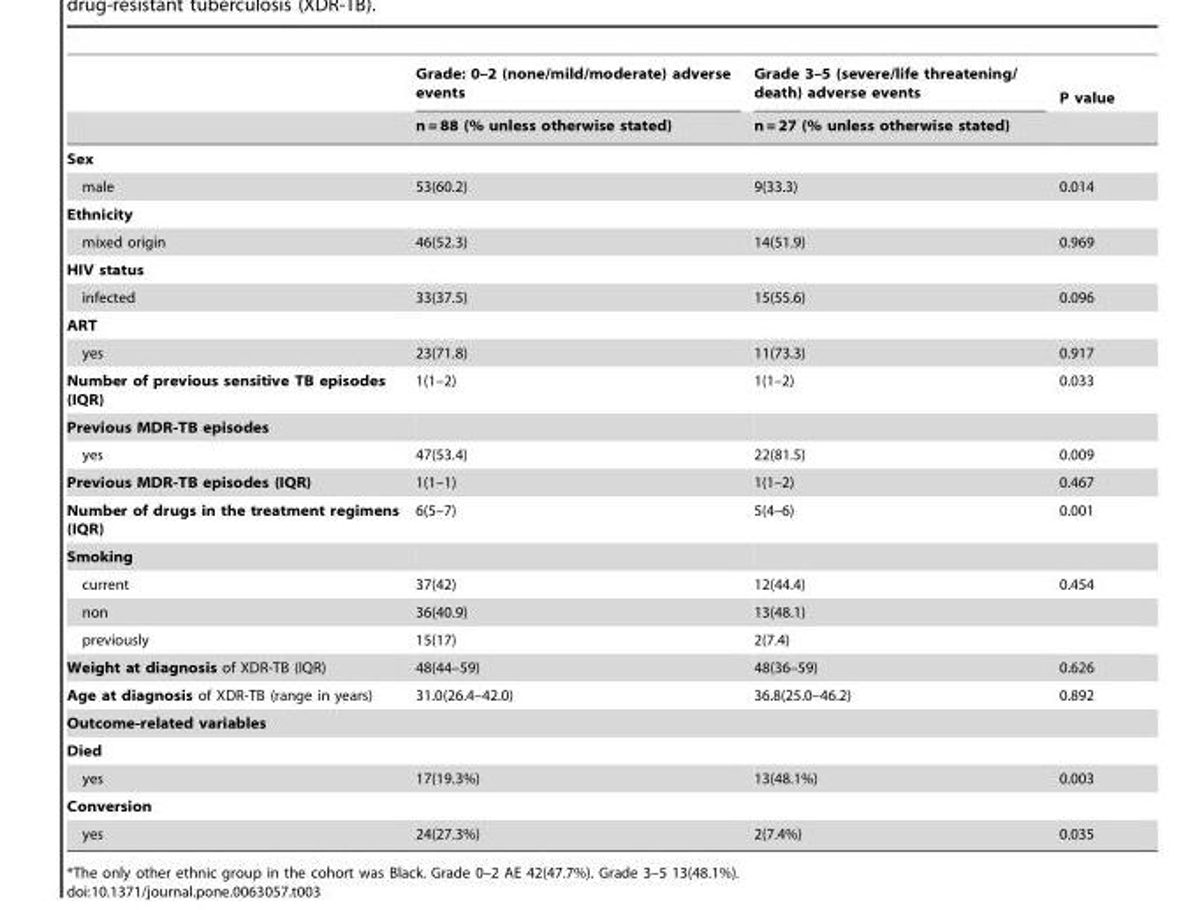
<table><thead><tr><td rowspan="2"></td><td rowspan="2">Grade: 0–2 (none/mild/moderate) adverse events n = 88 (% unless otherwise stated)</td><td rowspan="2">Grade 3–5 (severe/life threatening/ death) adverse events n = 27 (% unless otherwise stated)</td><td rowspan="2">P value</td></tr><tr></tr></thead><tbody><tr><td colspan="4">Sex</td></tr><tr><td>male</td><td>53(60.2)</td><td>9(33.3)</td><td>0.014</td></tr><tr><td colspan="4">Ethnicity</td></tr><tr><td>mixed origin</td><td>46(52.3)</td><td>14(51.9)</td><td>0.969</td></tr><tr><td colspan="4">HIV status</td></tr><tr><td>infected</td><td>33(37.5)</td><td>15(55.6)</td><td>0.096</td></tr><tr><td colspan="4">ART</td></tr><tr><td>yes</td><td>23(71.8)</td><td>11(73.3)</td><td>0.917</td></tr><tr><td>Number of previous sensitive TB episodes (IQR)</td><td>1(1–2)</td><td>1(1–2)</td><td>0.033</td></tr><tr><td colspan="4">Previous MDR-TB episodes</td></tr><tr><td>yes</td><td>47(53.4)</td><td>22(81.5)</td><td>0.009</td></tr><tr><td>Previous MDR-TB episodes (IQR)</td><td>1(1–1)</td><td>1(1–2)</td><td>0.467</td></tr><tr><td>Number of drugs in the treatment regimens (IQR)</td><td>6(5–7)</td><td>5(4–6)</td><td>0.001</td></tr><tr><td colspan="4">Smoking</td></tr><tr><td>current</td><td>37(42)</td><td>12(44.4)</td><td>0.454</td></tr><tr><td>non</td><td>36(40.9)</td><td>13(48.1)</td><td></td></tr><tr><td>previously</td><td>15(17)</td><td>2(7.4)</td><td></td></tr><tr><td>Weight at diagnosis of XDR-TB (IQR)</td><td>48(44–59)</td><td>48(36–59)</td><td>0.626</td></tr><tr><td>Age at diagnosis of XDR-TB (range in years)</td><td>31.0(26.4–42.0)</td><td>36.8(25.0–46.2)</td><td>0.892</td></tr><tr><td colspan="4">Outcome-related variables</td></tr><tr><td colspan="4">Died</td></tr><tr><td>yes</td><td>17(19.3%)</td><td>13(48.1%)</td><td>0.003</td></tr><tr><td colspan="4">Conversion</td></tr><tr><td>yes</td><td>24(27.3%)</td><td>2(7.4%)</td><td>0.035</td></tr></tbody></table>